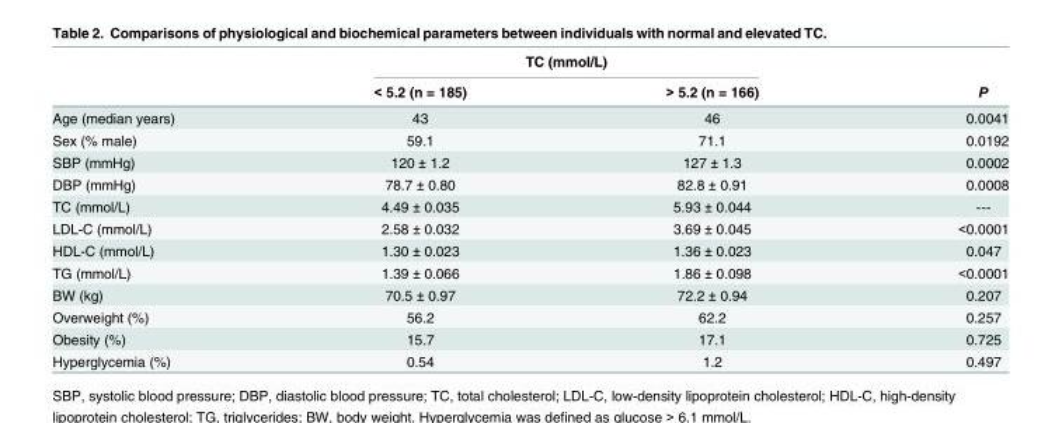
<table><thead><tr><td rowspan="2"></td><td colspan="2">TC (mmol/L)</td><td rowspan="2">P</td></tr><tr><td>&lt; 5.2 (n = 185)</td><td>&gt; 5.2 (n = 166)</td></tr></thead><tbody><tr><td>Age (median years)</td><td>43</td><td>46</td><td>0.0041</td></tr><tr><td>Sex (% male)</td><td>59.1</td><td>71.1</td><td>0.0192</td></tr><tr><td>SBP (mmHg)</td><td>120 ± 1.2</td><td>127 ± 1.3</td><td>0.0002</td></tr><tr><td>DBP (mmHg)</td><td>78.7 ± 0.80</td><td>82.8 ± 0.91</td><td>0.0008</td></tr><tr><td>TC (mmol/L)</td><td>4.49 ± 0.035</td><td>5.93 ± 0.044</td><td>---</td></tr><tr><td>LDL-C (mmol/L)</td><td>2.58 ± 0.032</td><td>3.69 ± 0.045</td><td>&lt;0.0001</td></tr><tr><td>HDL-C (mmol/L)</td><td>1.30 ± 0.023</td><td>1.36 ± 0.023</td><td>0.047</td></tr><tr><td>TG (mmol/L)</td><td>1.39 ± 0.066</td><td>1.86 ± 0.098</td><td>&lt;0.0001</td></tr><tr><td>BW (kg)</td><td>70.5 ± 0.97</td><td>72.2 ± 0.94</td><td>0.207</td></tr><tr><td>Overweight (%)</td><td>56.2</td><td>62.2</td><td>0.257</td></tr><tr><td>Obesity (%)</td><td>15.7</td><td>17.1</td><td>0.725</td></tr><tr><td>Hyperglycemia (%)</td><td>0.54</td><td>1.2</td><td>0.497</td></tr></tbody></table>